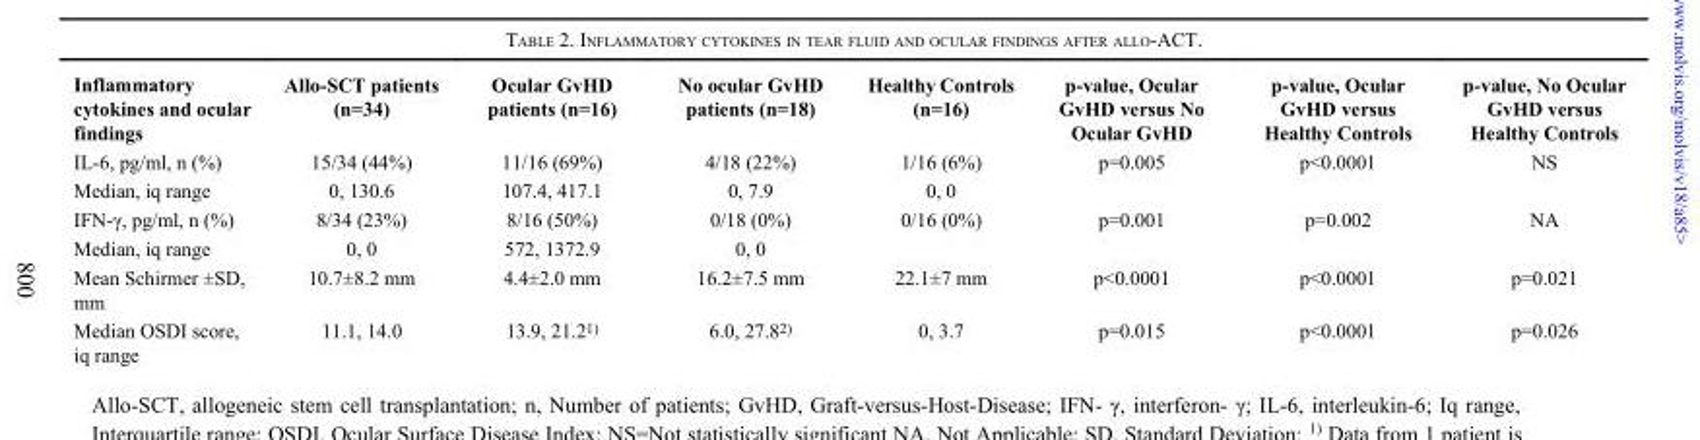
<table><thead><tr><td>Inflammatory cytokines and ocular findings</td><td>Allo-SCT patients (n=34)</td><td>Ocular GvHD patients (n=16)</td><td>No ocular GvHD patients (n=18)</td><td>Healthy Controls (n=16)</td><td>p-value, Ocular GvHD versus No Ocular GvHD</td><td>p-value, Ocular GvHD versus Healthy Controls</td><td>p-value, No Ocular GvHD versus Healthy Controls</td></tr></thead><tbody><tr><td>IL-6, pg/ml, n (%)</td><td>15/34 (44%)</td><td>11/16 (69%)</td><td>4/18 (22%)</td><td>1/16 (6%)</td><td>p=0.005</td><td>p&lt;0.0001</td><td>NS</td></tr><tr><td>Median, iq range</td><td>0, 130.6</td><td>107.4, 417.1</td><td>0, 7.9</td><td>0, 0</td><td></td><td></td><td></td></tr><tr><td>IFN-γ, pg/ml, n (%)</td><td>8/34 (23%)</td><td>8/16 (50%)</td><td>0/18 (0%)</td><td>0/16 (0%)</td><td>p=0.001</td><td>p=0.002</td><td>NA</td></tr><tr><td>Median, iq range</td><td>0, 0</td><td>572, 1372.9</td><td>0, 0</td><td></td><td></td><td></td><td></td></tr><tr><td>Mean Schirmer ±SD, mm</td><td>10.7±8.2 mm</td><td>4.4±2.0 mm</td><td>16.2±7.5 mm</td><td>22.1±7 mm</td><td>p&lt;0.0001</td><td>p&lt;0.0001</td><td>p=0.021</td></tr><tr><td>Median OSDI score, iq range</td><td>11.1, 14.0</td><td>13.9, 21.2<sup>1)</sup></td><td>6.0, 27.8<sup>2)</sup></td><td>0, 3.7</td><td>p=0.015</td><td>p&lt;0.0001</td><td>p=0.026</td></tr></tbody></table>